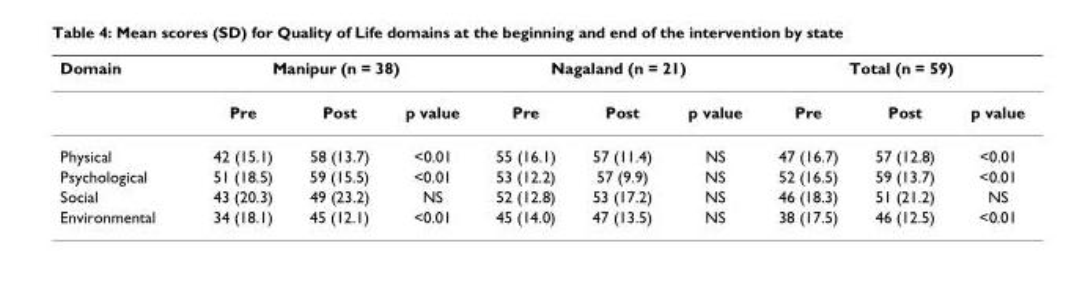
<table><thead><tr><td rowspan="2">Domain</td><td colspan="3">Manipur (n = 38)</td><td colspan="3">Nagaland (n = 21)</td><td colspan="3">Total (n = 59)</td></tr><tr><td>Pre</td><td>Post</td><td>p value</td><td>Pre</td><td>Post</td><td>p value</td><td>Pre</td><td>Post</td><td>p value</td></tr></thead><tbody><tr><td>Physical</td><td>42 (15.1)</td><td>58 (13.7)</td><td>&lt;0.01</td><td>55 (16.1)</td><td>57 (11.4)</td><td>NS</td><td>47 (16.7)</td><td>57 (12.8)</td><td>&lt;0.01</td></tr><tr><td>Psychological</td><td>51 (18.5)</td><td>59 (15.5)</td><td>&lt;0.01</td><td>53 (12.2)</td><td>57 (9.9)</td><td>NS</td><td>52 (16.5)</td><td>59 (13.7)</td><td>&lt;0.01</td></tr><tr><td>Social</td><td>43 (20.3)</td><td>49 (23.2)</td><td>NS</td><td>52 (12.8)</td><td>53 (17.2)</td><td>NS</td><td>46 (18.3)</td><td>51 (21.2)</td><td>NS</td></tr><tr><td>Environmental</td><td>34 (18.1)</td><td>45 (12.1)</td><td>&lt;0.01</td><td>45 (14.0)</td><td>47 (13.5)</td><td>NS</td><td>38 (17.5)</td><td>46 (12.5)</td><td>&lt;0.01</td></tr></tbody></table>